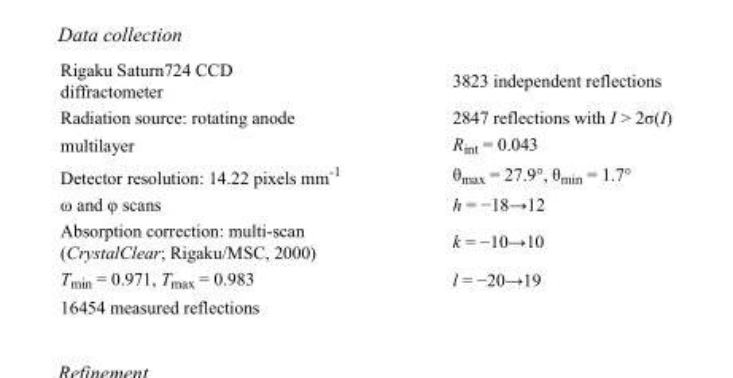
<table><tbody><tr><td>Rigaku Saturn724 CCD diffractometer</td><td>3823 independent reflections</td></tr><tr><td>Radiation source: rotating anode</td><td>2847 reflections with I &gt; 2σ(I)</td></tr><tr><td>multilayer</td><td>R<sub>int</sub> = 0.043</td></tr><tr><td>Detector resolution: 14.22 pixels mm<sup>-1</sup></td><td>θ<sub>max</sub> = 27.9°, θ<sub>min</sub> = 1.7°</td></tr><tr><td>ω and φ scans</td><td>h = −18→12</td></tr><tr><td>Absorption correction: multi-scan (CrystalClear; Rigaku/MSC, 2000)</td><td>k = −10→10</td></tr><tr><td>T<sub>min</sub> = 0.971, T<sub>max</sub> = 0.983</td><td>l = −20→19</td></tr><tr><td>16454 measured reflections</td><td></td></tr></tbody></table>